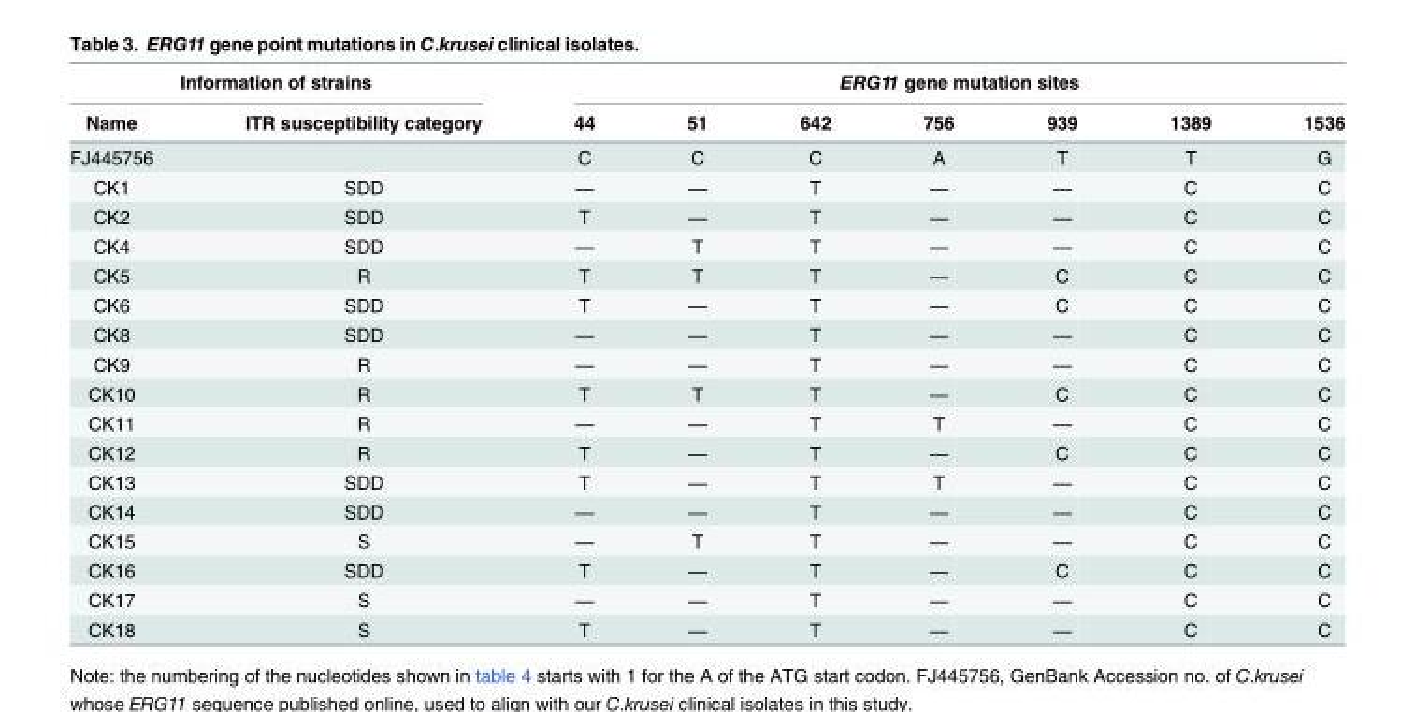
<table><thead><tr><td colspan="2">Information of strains</td><td colspan="7">ERG11 gene mutation sites</td></tr><tr><td>Name</td><td>ITR susceptibility category</td><td>44</td><td>51</td><td>642</td><td>756</td><td>939</td><td>1389</td><td>1536</td></tr></thead><tbody><tr><td>FJ445756</td><td></td><td>C</td><td>C</td><td>C</td><td>A</td><td>T</td><td>T</td><td>G</td></tr><tr><td>CK1</td><td>SDD</td><td>—</td><td>—</td><td>T</td><td>—</td><td>—</td><td>C</td><td>C</td></tr><tr><td>CK2</td><td>SDD</td><td>T</td><td>—</td><td>T</td><td>—</td><td>—</td><td>C</td><td>C</td></tr><tr><td>CK4</td><td>SDD</td><td>—</td><td>T</td><td>T</td><td>—</td><td>—</td><td>C</td><td>C</td></tr><tr><td>CK5</td><td>R</td><td>T</td><td>T</td><td>T</td><td>—</td><td>C</td><td>C</td><td>C</td></tr><tr><td>CK6</td><td>SDD</td><td>T</td><td>—</td><td>T</td><td>—</td><td>C</td><td>C</td><td>C</td></tr><tr><td>CK8</td><td>SDD</td><td>—</td><td>—</td><td>T</td><td>—</td><td>—</td><td>C</td><td>C</td></tr><tr><td>CK9</td><td>R</td><td>—</td><td>—</td><td>T</td><td>—</td><td>—</td><td>C</td><td>C</td></tr><tr><td>CK10</td><td>R</td><td>T</td><td>T</td><td>T</td><td>—</td><td>C</td><td>C</td><td>C</td></tr><tr><td>CK11</td><td>R</td><td>—</td><td>—</td><td>T</td><td>T</td><td>—</td><td>C</td><td>C</td></tr><tr><td>CK12</td><td>R</td><td>T</td><td>—</td><td>T</td><td>—</td><td>C</td><td>C</td><td>C</td></tr><tr><td>CK13</td><td>SDD</td><td>T</td><td>—</td><td>T</td><td>T</td><td>—</td><td>C</td><td>C</td></tr><tr><td>CK14</td><td>SDD</td><td>—</td><td>—</td><td>T</td><td>—</td><td>—</td><td>C</td><td>C</td></tr><tr><td>CK15</td><td>S</td><td>—</td><td>T</td><td>T</td><td>—</td><td>—</td><td>C</td><td>C</td></tr><tr><td>CK16</td><td>SDD</td><td>T</td><td>—</td><td>T</td><td>—</td><td>C</td><td>C</td><td>C</td></tr><tr><td>CK17</td><td>S</td><td>—</td><td>—</td><td>T</td><td>—</td><td>—</td><td>C</td><td>C</td></tr><tr><td>CK18</td><td>S</td><td>T</td><td>—</td><td>T</td><td>—</td><td>—</td><td>C</td><td>C</td></tr></tbody></table>